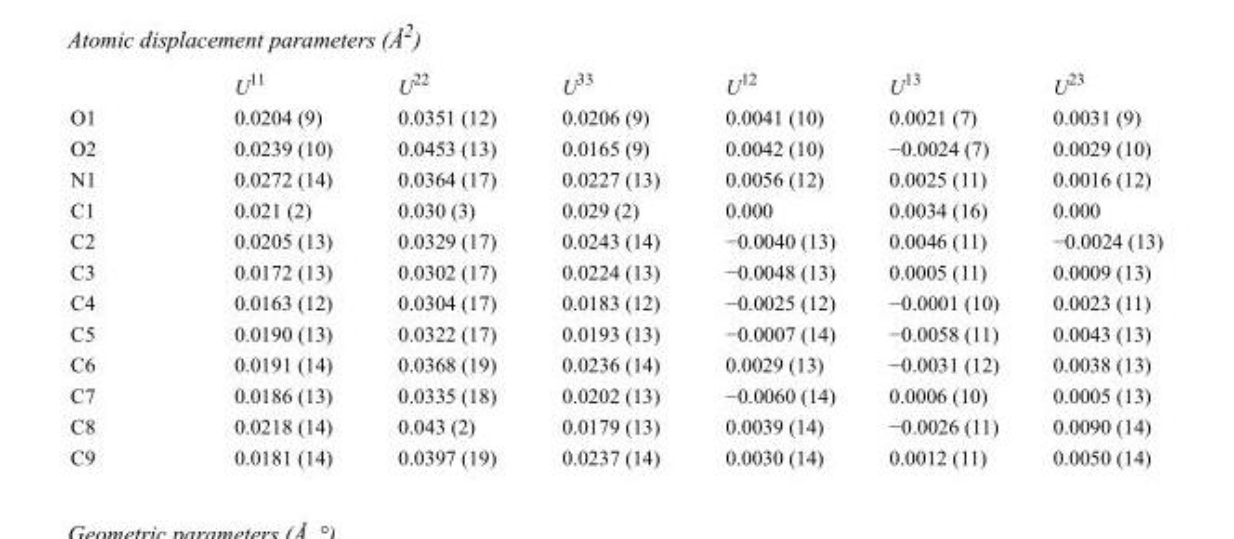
<table><thead><tr><td></td><td>U<sup>11</sup></td><td>U<sup>22</sup></td><td>U<sup>33</sup></td><td>U<sup>12</sup></td><td>U<sup>13</sup></td><td>U<sup>23</sup></td></tr></thead><tbody><tr><td>O1</td><td>0.0204 (9)</td><td>0.0351 (12)</td><td>0.0206 (9)</td><td>0.0041 (10)</td><td>0.0021 (7)</td><td>0.0031 (9)</td></tr><tr><td>O2</td><td>0.0239 (10)</td><td>0.0453 (13)</td><td>0.0165 (9)</td><td>0.0042 (10)</td><td>−0.0024 (7)</td><td>0.0029 (10)</td></tr><tr><td>N1</td><td>0.0272 (14)</td><td>0.0364 (17)</td><td>0.0227 (13)</td><td>0.0056 (12)</td><td>0.0025 (11)</td><td>0.0016 (12)</td></tr><tr><td>C1</td><td>0.021 (2)</td><td>0.030 (3)</td><td>0.029 (2)</td><td>0.000</td><td>0.0034 (16)</td><td>0.000</td></tr><tr><td>C2</td><td>0.0205 (13)</td><td>0.0329 (17)</td><td>0.0243 (14)</td><td>−0.0040 (13)</td><td>0.0046 (11)</td><td>−0.0024 (13)</td></tr><tr><td>C3</td><td>0.0172 (13)</td><td>0.0302 (17)</td><td>0.0224 (13)</td><td>−0.0048 (13)</td><td>0.0005 (11)</td><td>0.0009 (13)</td></tr><tr><td>C4</td><td>0.0163 (12)</td><td>0.0304 (17)</td><td>0.0183 (12)</td><td>−0.0025 (12)</td><td>−0.0001 (10)</td><td>0.0023 (11)</td></tr><tr><td>C5</td><td>0.0190 (13)</td><td>0.0322 (17)</td><td>0.0193 (13)</td><td>−0.0007 (14)</td><td>−0.0058 (11)</td><td>0.0043 (13)</td></tr><tr><td>C6</td><td>0.0191 (14)</td><td>0.0368 (19)</td><td>0.0236 (14)</td><td>0.0029 (13)</td><td>−0.0031 (12)</td><td>0.0038 (13)</td></tr><tr><td>C7</td><td>0.0186 (13)</td><td>0.0335 (18)</td><td>0.0202 (13)</td><td>−0.0060 (14)</td><td>0.0006 (10)</td><td>0.0005 (13)</td></tr><tr><td>C8</td><td>0.0218 (14)</td><td>0.043 (2)</td><td>0.0179 (13)</td><td>0.0039 (14)</td><td>−0.0026 (11)</td><td>0.0090 (14)</td></tr><tr><td>C9</td><td>0.0181 (14)</td><td>0.0397 (19)</td><td>0.0237 (14)</td><td>0.0030 (14)</td><td>0.0012 (11)</td><td>0.0050 (14)</td></tr></tbody></table>